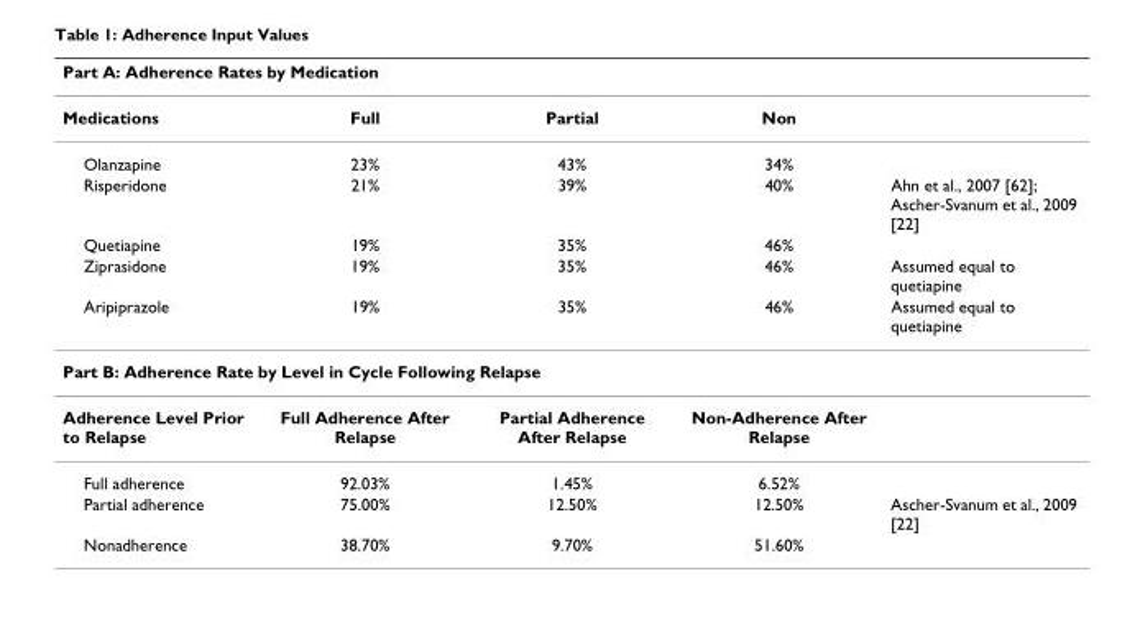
<table><thead><tr><td colspan="5">Part A: Adherence Rates by Medication</td></tr><tr><td>Medications</td><td>Full</td><td>Partial</td><td>Non</td><td></td></tr></thead><tbody><tr><td>Olanzapine</td><td>23%</td><td>43%</td><td>34%</td><td></td></tr><tr><td>Risperidone</td><td>21%</td><td>39%</td><td>40%</td><td>Ahn et al., 2007 [62]; Ascher-Svanum et al., 2009 [22]</td></tr><tr><td>Quetiapine</td><td>19%</td><td>35%</td><td>46%</td><td></td></tr><tr><td>Ziprasidone</td><td>19%</td><td>35%</td><td>46%</td><td>Assumed equal to quetiapine</td></tr><tr><td>Aripiprazole</td><td>19%</td><td>35%</td><td>46%</td><td>Assumed equal to quetiapine</td></tr><tr><td colspan="5">Part B: Adherence Rate by Level in Cycle Following Relapse</td></tr><tr><td>Adherence Level Prior to Relapse</td><td>Full Adherence After Relapse</td><td>Partial Adherence After Relapse</td><td>Non-Adherence After Relapse</td><td></td></tr><tr><td>Full adherence</td><td>92.03%</td><td>1.45%</td><td>6.52%</td><td></td></tr><tr><td>Partial adherence</td><td>75.00%</td><td>12.50%</td><td>12.50%</td><td>Ascher-Svanum et al., 2009 [22]</td></tr><tr><td>Nonadherence</td><td>38.70%</td><td>9.70%</td><td>51.60%</td><td></td></tr></tbody></table>